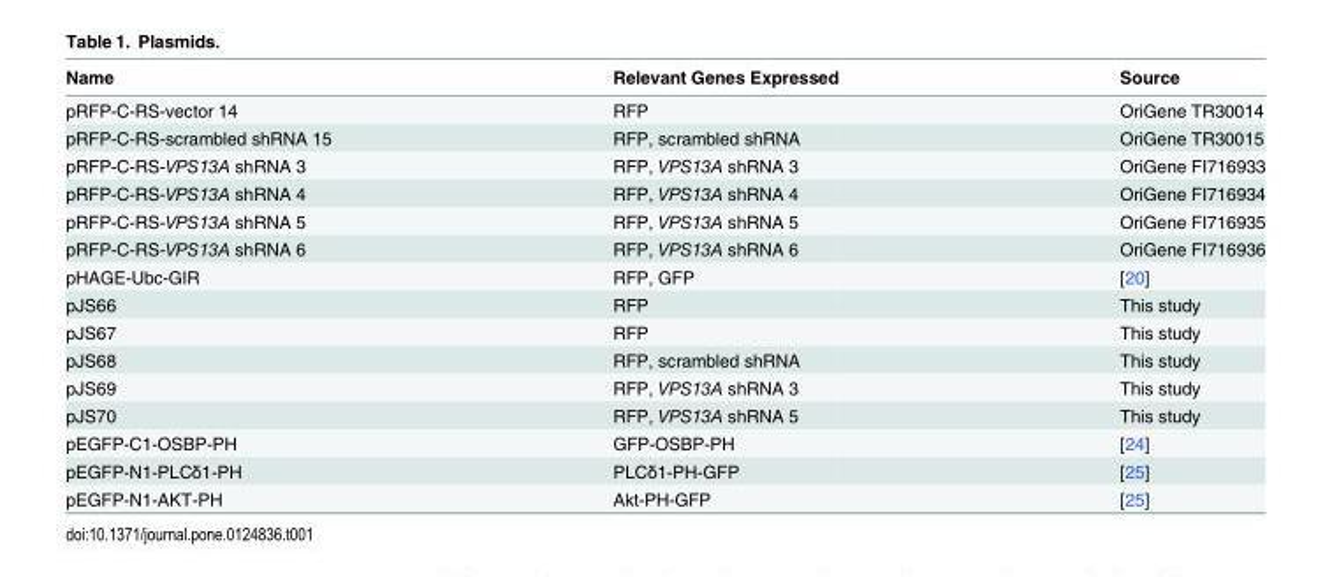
<table><thead><tr><td>Name</td><td>Relevant Genes Expressed</td><td>Source</td></tr></thead><tbody><tr><td>pRFP-C-RS-vector 14</td><td>RFP</td><td>OriGene TR30014</td></tr><tr><td>pRFP-C-RS-scrambled shRNA 15</td><td>RFP, scrambled shRNA</td><td>OriGene TR30015</td></tr><tr><td>pRFP-C-RS-VPS13A shRNA 3</td><td>RFP, VPS13A shRNA 3</td><td>OriGene FI716933</td></tr><tr><td>pRFP-C-RS-VPS13A shRNA 4</td><td>RFP, VPS13A shRNA 4</td><td>OriGene FI716934</td></tr><tr><td>pRFP-C-RS-VPS13A shRNA 5</td><td>RFP, VPS13A shRNA 5</td><td>OriGene FI716935</td></tr><tr><td>pRFP-C-RS-VPS13A shRNA 6</td><td>RFP, VPS13A shRNA 6</td><td>OriGene FI716936</td></tr><tr><td>pHAGE-Ubc-GIR</td><td>RFP, GFP</td><td>[20]</td></tr><tr><td>pJS66</td><td>RFP</td><td>This study</td></tr><tr><td>pJS67</td><td>RFP</td><td>This study</td></tr><tr><td>pJS68</td><td>RFP, scrambled shRNA</td><td>This study</td></tr><tr><td>pJS69</td><td>RFP, VPS13A shRNA 3</td><td>This study</td></tr><tr><td>pJS70</td><td>RFP, VPS13A shRNA 5</td><td>This study</td></tr><tr><td>pEGFP-C1-OSBP-PH</td><td>GFP-OSBP-PH</td><td>[24]</td></tr><tr><td>pEGFP-N1-PLCδ1-PH</td><td>PLCδ1-PH-GFP</td><td>[25]</td></tr><tr><td>pEGFP-N1-AKT-PH</td><td>Akt-PH-GFP</td><td>[25]</td></tr></tbody></table>